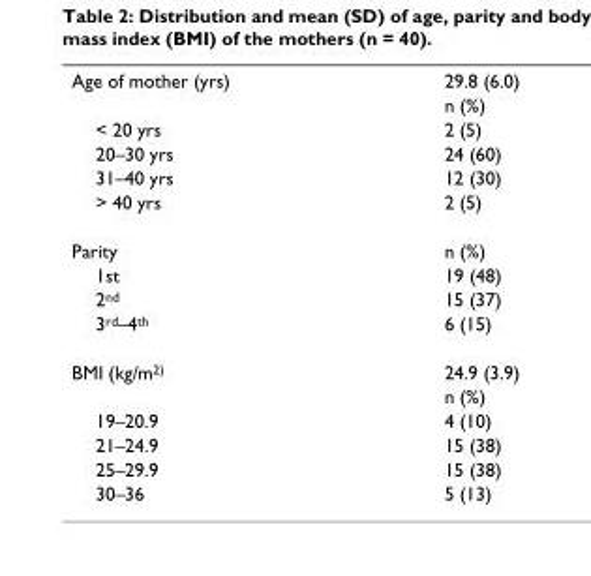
<table><tbody><tr><td rowspan="2">Age of mother (yrs)</td><td>29.8 (6.0)</td></tr><tr><td>n (%)</td></tr><tr><td>&lt; 20 yrs</td><td>2 (5)</td></tr><tr><td>20–30 yrs</td><td>24 (60)</td></tr><tr><td>31–40 yrs</td><td>12 (30)</td></tr><tr><td>&gt; 40 yrs</td><td>2 (5)</td></tr><tr><td>Parity</td><td>n (%)</td></tr><tr><td>1st</td><td>19 (48)</td></tr><tr><td>2<sup>nd</sup></td><td>15 (37)</td></tr><tr><td>3<sup>rd</sup>–4<sup>th</sup></td><td>6 (15)</td></tr><tr><td rowspan="2">BMI (kg/m<sup>2)</sup></td><td>24.9 (3.9)</td></tr><tr><td>n (%)</td></tr><tr><td>19–20.9</td><td>4 (10)</td></tr><tr><td>21–24.9</td><td>15 (38)</td></tr><tr><td>25–29.9</td><td>15 (38)</td></tr><tr><td>30–36</td><td>5 (13)</td></tr></tbody></table>